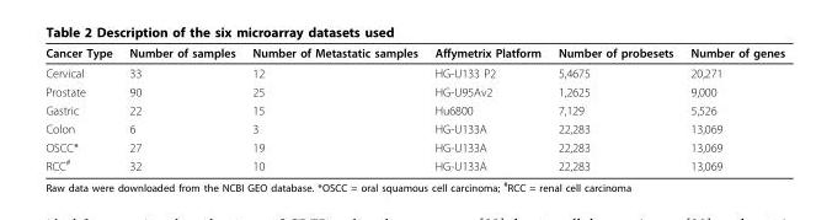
<table><thead><tr><td>Cancer Type</td><td>Number of samples</td><td>Number of Metastatic samples</td><td>Affymetrix Platform</td><td>Number of probesets</td><td>Number of genes</td></tr></thead><tbody><tr><td>Cervical</td><td>33</td><td>12</td><td>HG-U133 P2</td><td>5,4675</td><td>20,271</td></tr><tr><td>Prostate</td><td>90</td><td>25</td><td>HG-U95Av2</td><td>1,2625</td><td>9,000</td></tr><tr><td>Gastric</td><td>22</td><td>15</td><td>Hu6800</td><td>7,129</td><td>5,526</td></tr><tr><td>Colon</td><td>6</td><td>3</td><td>HG-U133A</td><td>22,283</td><td>13,069</td></tr><tr><td>OSCC*</td><td>27</td><td>19</td><td>HG-U133A</td><td>22,283</td><td>13,069</td></tr><tr><td>RCC<sup>#</sup></td><td>32</td><td>10</td><td>HG-U133A</td><td>22,283</td><td>13,069</td></tr></tbody></table>